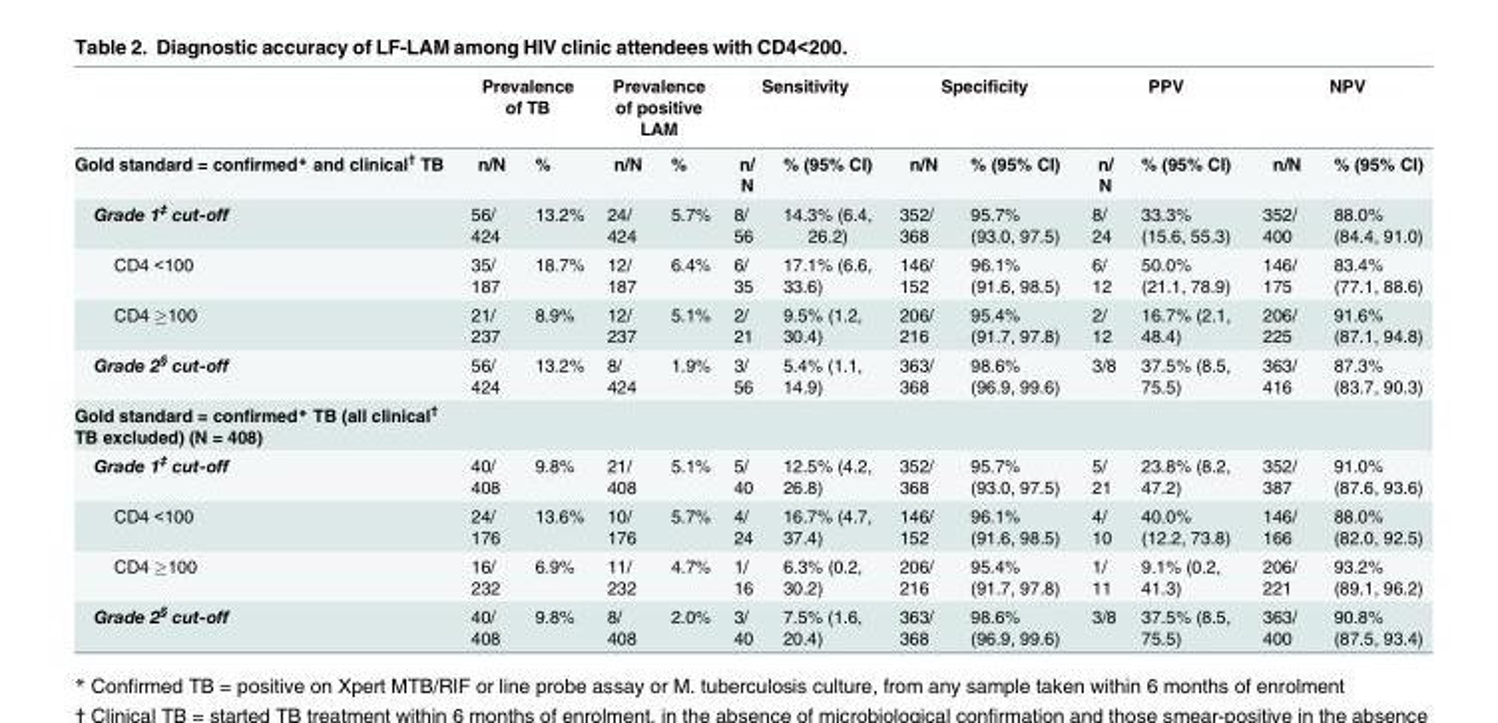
<table><thead><tr><td rowspan="2">Gold standard = confirmed* and clinical<sup>†</sup> TB</td><td colspan="2">Prevalence of TB</td><td colspan="2">Prevalence of positive LAM</td><td colspan="2">Sensitivity</td><td colspan="2">Specificity</td><td colspan="2">PPV</td><td colspan="2">NPV</td></tr><tr><td>n/N</td><td>%</td><td>n/N</td><td>%</td><td>n/ N</td><td>% (95% CI)</td><td>n/N</td><td>% (95% CI)</td><td>n/ N</td><td>% (95% CI)</td><td>n/N</td><td>% (95% CI)</td></tr></thead><tbody><tr><td>Grade 1<sup>‡</sup> cut-off</td><td>56/ 424</td><td>13.2%</td><td>24/ 424</td><td>5.7%</td><td>8/ 56</td><td>14.3% (6.4, 26.2)</td><td>352/ 368</td><td>95.7% (93.0, 97.5)</td><td>8/ 24</td><td>33.3% (15.6, 55.3)</td><td>352/ 400</td><td>88.0% (84.4, 91.0)</td></tr><tr><td>CD4 &lt;100</td><td>35/ 187</td><td>18.7%</td><td>12/ 187</td><td>6.4%</td><td>6/ 35</td><td>17.1% (6.6, 33.6)</td><td>146/ 152</td><td>96.1% (91.6, 98.5)</td><td>6/ 12</td><td>50.0% (21.1, 78.9)</td><td>146/ 175</td><td>83.4% (77.1, 88.6)</td></tr><tr><td>CD4 ≥100</td><td>21/ 237</td><td>8.9%</td><td>12/ 237</td><td>5.1%</td><td>2/ 21</td><td>9.5% (1.2, 30.4)</td><td>206/ 216</td><td>95.4% (91.7, 97.8)</td><td>2/ 12</td><td>16.7% (2.1, 48.4)</td><td>206/ 225</td><td>91.6% (87.1, 94.8)</td></tr><tr><td>Grade 2<sup>§</sup> cut-off</td><td>56/ 424</td><td>13.2%</td><td>8/ 424</td><td>1.9%</td><td>3/ 56</td><td>5.4% (1.1, 14.9)</td><td>363/ 368</td><td>98.6% (96.9, 99.6)</td><td>3/8</td><td>37.5% (8.5, 75.5)</td><td>363/ 416</td><td>87.3% (83.7, 90.3)</td></tr><tr><td colspan="13">Gold standard = confirmed* TB (all clinical<sup>†</sup> TB excluded) (N = 408)</td></tr><tr><td>Grade 1<sup>‡</sup> cut-off</td><td>40/ 408</td><td>9.8%</td><td>21/ 408</td><td>5.1%</td><td>5/ 40</td><td>12.5% (4.2, 26.8)</td><td>352/ 368</td><td>95.7% (93.0, 97.5)</td><td>5/ 21</td><td>23.8% (8.2, 47.2)</td><td>352/ 387</td><td>91.0% (87.6, 93.6)</td></tr><tr><td>CD4 &lt;100</td><td>24/ 176</td><td>13.6%</td><td>10/ 176</td><td>5.7%</td><td>4/ 24</td><td>16.7% (4.7, 37.4)</td><td>146/ 152</td><td>96.1% (91.6, 98.5)</td><td>4/ 10</td><td>40.0% (12.2, 73.8)</td><td>146/ 166</td><td>88.0% (82.0, 92.5)</td></tr><tr><td>CD4 ≥100</td><td>16/ 232</td><td>6.9%</td><td>11/ 232</td><td>4.7%</td><td>1/ 16</td><td>6.3% (0.2, 30.2)</td><td>206/ 216</td><td>95.4% (91.7, 97.8)</td><td>1/ 11</td><td>9.1% (0.2, 41.3)</td><td>206/ 221</td><td>93.2% (89.1, 96.2)</td></tr><tr><td>Grade 2<sup>§</sup> cut-off</td><td>40/ 408</td><td>9.8%</td><td>8/ 408</td><td>2.0%</td><td>3/ 40</td><td>7.5% (1.6, 20.4)</td><td>363/ 368</td><td>98.6% (96.9, 99.6)</td><td>3/8</td><td>37.5% (8.5, 75.5)</td><td>363/ 400</td><td>90.8% (87.5, 93.4)</td></tr></tbody></table>